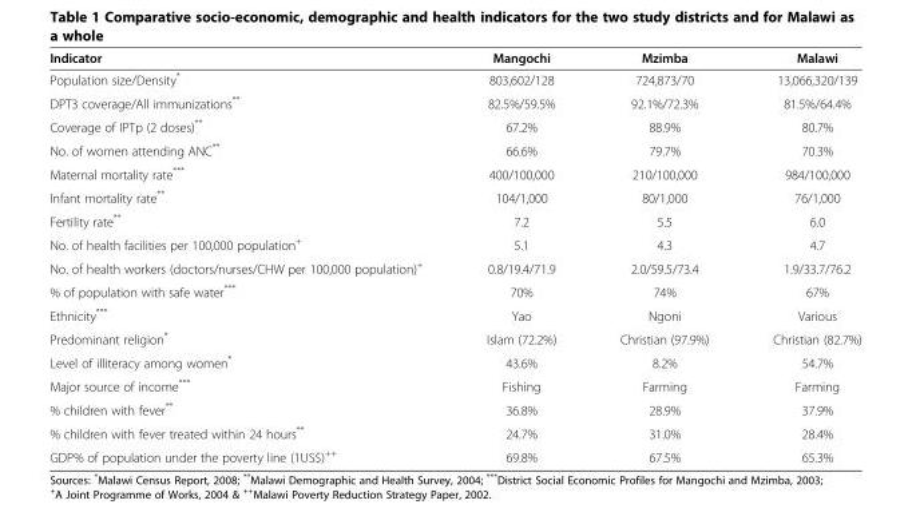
<table><thead><tr><td>Indicator</td><td>Mangochi</td><td>Mzimba</td><td>Malawi</td></tr></thead><tbody><tr><td>Population size/Density*</td><td>803,602/128</td><td>724,873/70</td><td>13,066,320/139</td></tr><tr><td>DPT3 coverage/All immunizations**</td><td>82.5%/59.5%</td><td>92.1%/72.3%</td><td>81.5%/64.4%</td></tr><tr><td>Coverage of IPTp (2 doses)**</td><td>67.2%</td><td>88.9%</td><td>80.7%</td></tr><tr><td>No. of women attending ANC**</td><td>66.6%</td><td>79.7%</td><td>70.3%</td></tr><tr><td>Maternal mortality rate***</td><td>400/100,000</td><td>210/100,000</td><td>984/100,000</td></tr><tr><td>Infant mortality rate**</td><td>104/1,000</td><td>80/1,000</td><td>76/1,000</td></tr><tr><td>Fertility rate**</td><td>7.2</td><td>5.5</td><td>6.0</td></tr><tr><td>No. of health facilities per 100,000 population<sup>+</sup></td><td>5.1</td><td>4.3</td><td>4.7</td></tr><tr><td>No. of health workers (doctors/nurses/CHW per 100,000 population)<sup>+</sup></td><td>0.8/19.4/71.9</td><td>2.0/59.5/73.4</td><td>1.9/33.7/76.2</td></tr><tr><td>% of population with safe water***</td><td>70%</td><td>74%</td><td>67%</td></tr><tr><td>Ethnicity***</td><td>Yao</td><td>Ngoni</td><td>Various</td></tr><tr><td>Predominant religion*</td><td>Islam (72.2%)</td><td>Christian (97.9%)</td><td>Christian (82.7%)</td></tr><tr><td>Level of illiteracy among women*</td><td>43.6%</td><td>8.2%</td><td>54.7%</td></tr><tr><td>Major source of income***</td><td>Fishing</td><td>Farming</td><td>Farming</td></tr><tr><td>% children with fever**</td><td>36.8%</td><td>28.9%</td><td>37.9%</td></tr><tr><td>% children with fever treated within 24 hours**</td><td>24.7%</td><td>31.0%</td><td>28.4%</td></tr><tr><td>GDP% of population under the poverty line (1US$)<sup>++</sup></td><td>69.8%</td><td>67.5%</td><td>65.3%</td></tr></tbody></table>